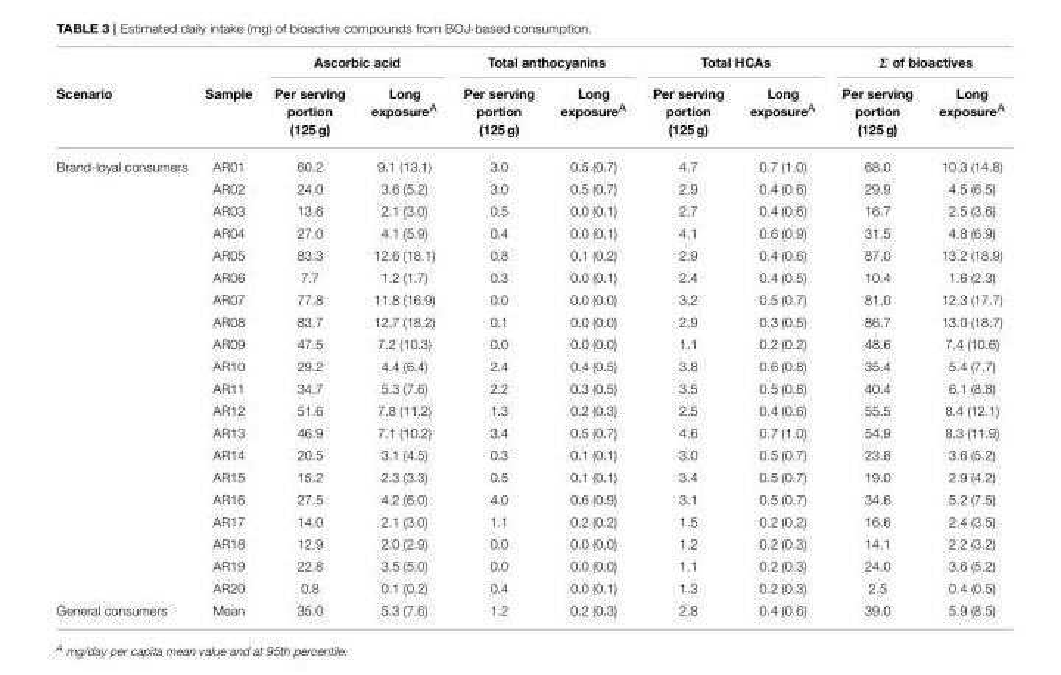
<table><thead><tr><td rowspan="2">Scenario</td><td rowspan="2">Sample</td><td colspan="2">Ascorbic acid</td><td colspan="2">Total anthocyanins</td><td colspan="2">Total HCAs</td><td colspan="2">Σ of bioactives</td></tr><tr><td>Per serving portion (125 g)</td><td>Long exposure<sup>A</sup></td><td>Per serving portion (125 g)</td><td>Long exposure<sup>A</sup></td><td>Per serving portion (125 g)</td><td>Long exposure<sup>A</sup></td><td>Per serving portion (125 g)</td><td>Long exposure<sup>A</sup></td></tr></thead><tbody><tr><td rowspan="20">Brand-loyal consumers</td><td>AR01</td><td>60.2</td><td>9.1 (13.1)</td><td>3.0</td><td>0.5 (0.7)</td><td>4.7</td><td>0.7 (1.0)</td><td>68.0</td><td>10.3 (14.8)</td></tr><tr><td>AR02</td><td>24.0</td><td>3.6 (5.2)</td><td>3.0</td><td>0.5 (0.7)</td><td>2.9</td><td>0.4 (0.6)</td><td>29.9</td><td>4.5 (6.5)</td></tr><tr><td>AR03</td><td>13.6</td><td>2.1 (3.0)</td><td>0.5</td><td>0.0 (0.1)</td><td>2.7</td><td>0.4 (0.6)</td><td>16.7</td><td>2.5 (3.6)</td></tr><tr><td>AR04</td><td>27.0</td><td>4.1 (5.9)</td><td>0.4</td><td>0.0 (0.1)</td><td>4.1</td><td>0.6 (0.9)</td><td>31.5</td><td>4.8 (6.9)</td></tr><tr><td>AR05</td><td>83.3</td><td>12.6 (18.1)</td><td>0.8</td><td>0.1 (0.2)</td><td>2.9</td><td>0.4 (0.6)</td><td>87.0</td><td>13.2 (18.9)</td></tr><tr><td>AR06</td><td>7.7</td><td>1.2 (1.7)</td><td>0.3</td><td>0.0 (0.1)</td><td>2.4</td><td>0.4 (0.5)</td><td>10.4</td><td>1.6 (2.3)</td></tr><tr><td>AR07</td><td>77.8</td><td>11.8 (16.9)</td><td>0.0</td><td>0.0 (0.0)</td><td>3.2</td><td>0.5 (0.7)</td><td>81.0</td><td>12.3 (17.7)</td></tr><tr><td>AR08</td><td>83.7</td><td>12.7 (18.2)</td><td>0.1</td><td>0.0 (0.0)</td><td>2.9</td><td>0.3 (0.5)</td><td>86.7</td><td>13.0 (18.7)</td></tr><tr><td>AR09</td><td>47.5</td><td>7.2 (10.3)</td><td>0.0</td><td>0.0 (0.0)</td><td>1.1</td><td>0.2 (0.2)</td><td>48.6</td><td>7.4 (10.6)</td></tr><tr><td>AR10</td><td>29.2</td><td>4.4 (6.4)</td><td>2.4</td><td>0.4 (0.5)</td><td>3.8</td><td>0.6 (0.8)</td><td>35.4</td><td>5.4 (7.7)</td></tr><tr><td>AR11</td><td>34.7</td><td>5.3 (7.6)</td><td>2.2</td><td>0.3 (0.5)</td><td>3.5</td><td>0.5 (0.8)</td><td>40.4</td><td>6.1 (8.8)</td></tr><tr><td>AR12</td><td>51.6</td><td>7.8 (11.2)</td><td>1.3</td><td>0.2 (0.3)</td><td>2.5</td><td>0.4 (0.6)</td><td>55.5</td><td>8.4 (12.1)</td></tr><tr><td>AR13</td><td>46.9</td><td>7.1 (10.2)</td><td>3.4</td><td>0.5 (0.7)</td><td>4.6</td><td>0.7 (1.0)</td><td>54.9</td><td>8.3 (11.9)</td></tr><tr><td>AR14</td><td>20.5</td><td>3.1 (4.5)</td><td>0.3</td><td>0.1 (0.1)</td><td>3.0</td><td>0.5 (0.7)</td><td>23.8</td><td>3.6 (5.2)</td></tr><tr><td>AR15</td><td>15.2</td><td>2.3 (3.3)</td><td>0.5</td><td>0.1 (0.1)</td><td>3.4</td><td>0.5 (0.7)</td><td>19.0</td><td>2.9 (4.2)</td></tr><tr><td>AR16</td><td>27.5</td><td>4.2 (6.0)</td><td>4.0</td><td>0.6 (0.9)</td><td>3.1</td><td>0.5 (0.7)</td><td>34.6</td><td>5.2 (7.5)</td></tr><tr><td>AR17</td><td>14.0</td><td>2.1 (3.0)</td><td>1.1</td><td>0.2 (0.2)</td><td>1.5</td><td>0.2 (0.2)</td><td>16.6</td><td>2.4 (3.5)</td></tr><tr><td>AR18</td><td>12.9</td><td>2.0 (2.9)</td><td>0.0</td><td>0.0 (0.0)</td><td>1.2</td><td>0.2 (0.3)</td><td>14.1</td><td>2.2 (3.2)</td></tr><tr><td>AR19</td><td>22.8</td><td>3.5 (5.0)</td><td>0.0</td><td>0.0 (0.0)</td><td>1.1</td><td>0.2 (0.3)</td><td>24.0</td><td>3.6 (5.2)</td></tr><tr><td>AR20</td><td>0.8</td><td>0.1 (0.2)</td><td>0.4</td><td>0.0 (0.1)</td><td>1.3</td><td>0.2 (0.3)</td><td>2.5</td><td>0.4 (0.5)</td></tr><tr><td>General consumers</td><td>Mean</td><td>35.0</td><td>5.3 (7.6)</td><td>1.2</td><td>0.2 (0.3)</td><td>2.8</td><td>0.4 (0.6)</td><td>39.0</td><td>5.9 (8.5)</td></tr></tbody></table>